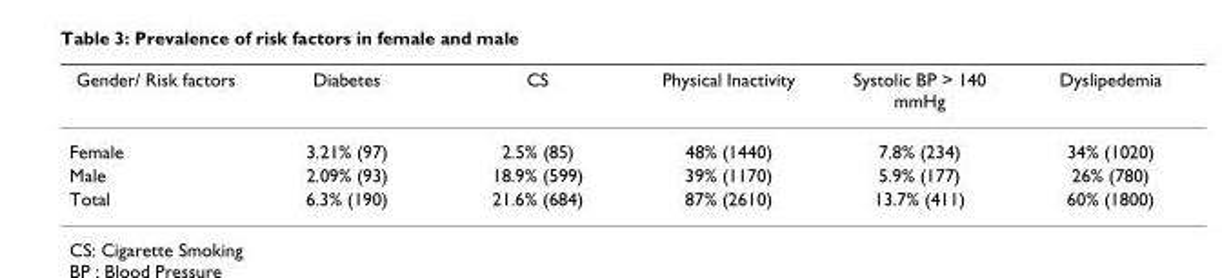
<table><thead><tr><td>Gender/ Risk factors</td><td>Diabetes</td><td>CS</td><td>Physical Inactivity</td><td>Systolic BP &gt; 140 mmHg</td><td>Dyslipedemia</td></tr></thead><tbody><tr><td>Female</td><td>3.21% (97)</td><td>2.5% (85)</td><td>48% (1440)</td><td>7.8% (234)</td><td>34% (1020)</td></tr><tr><td>Male</td><td>2.09% (93)</td><td>18.9% (599)</td><td>39% (1170)</td><td>5.9% (177)</td><td>26% (780)</td></tr><tr><td>Total</td><td>6.3% (190)</td><td>21.6% (684)</td><td>87% (2610)</td><td>13.7% (411)</td><td>60% (1800)</td></tr></tbody></table>